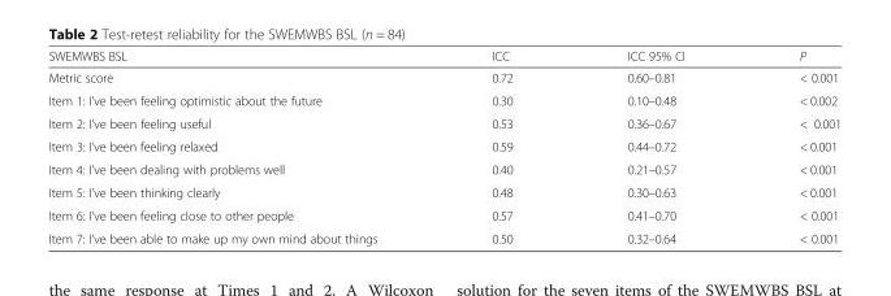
<table><thead><tr><td>SWEMWBS BSL</td><td>ICC</td><td>ICC 95% CI</td><td>P</td></tr></thead><tbody><tr><td>Metric score</td><td>0.72</td><td>0.60–0.81</td><td>&lt; 0.001</td></tr><tr><td>Item 1: I’ve been feeling optimistic about the future</td><td>0.30</td><td>0.10–0.48</td><td>&lt; 0.002</td></tr><tr><td>Item 2: I’ve been feeling useful</td><td>0.53</td><td>0.36–0.67</td><td>&lt; 0.001</td></tr><tr><td>Item 3: I’ve been feeling relaxed</td><td>0.59</td><td>0.44–0.72</td><td>&lt; 0.001</td></tr><tr><td>Item 4: I’ve been dealing with problems well</td><td>0.40</td><td>0.21–0.57</td><td>&lt; 0.001</td></tr><tr><td>Item 5: I’ve been thinking clearly</td><td>0.48</td><td>0.30–0.63</td><td>&lt; 0.001</td></tr><tr><td>Item 6: I’ve been feeling close to other people</td><td>0.57</td><td>0.41–0.70</td><td>&lt; 0.001</td></tr><tr><td>Item 7: I’ve been able to make up my own mind about things</td><td>0.50</td><td>0.32–0.64</td><td>&lt; 0.001</td></tr></tbody></table>